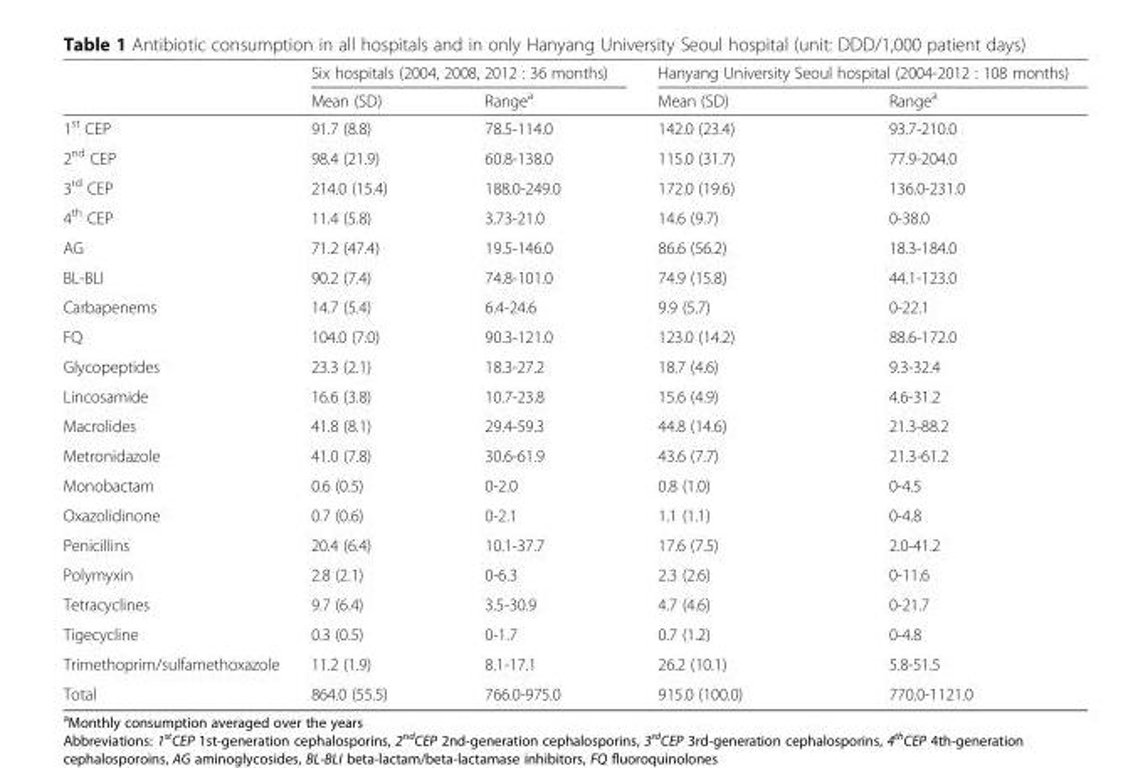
<table><thead><tr><td rowspan="2"></td><td colspan="2">Six hospitals (2004, 2008, 2012 : 36 months)</td><td colspan="2">Hanyang University Seoul hospital (2004-2012 : 108 months)</td></tr><tr><td>Mean (SD)</td><td>Range<sup>a</sup></td><td>Mean (SD)</td><td>Range<sup>a</sup></td></tr></thead><tbody><tr><td>1<sup>st</sup> CEP</td><td>91.7 (8.8)</td><td>78.5-114.0</td><td>142.0 (23.4)</td><td>93.7-210.0</td></tr><tr><td>2<sup>nd</sup> CEP</td><td>98.4 (21.9)</td><td>60.8-138.0</td><td>115.0 (31.7)</td><td>77.9-204.0</td></tr><tr><td>3<sup>rd</sup> CEP</td><td>214.0 (15.4)</td><td>188.0-249.0</td><td>172.0 (19.6)</td><td>136.0-231.0</td></tr><tr><td>4<sup>th</sup> CEP</td><td>11.4 (5.8)</td><td>3.73-21.0</td><td>14.6 (9.7)</td><td>0-38.0</td></tr><tr><td>AG</td><td>71.2 (47.4)</td><td>19.5-146.0</td><td>86.6 (56.2)</td><td>18.3-184.0</td></tr><tr><td>BL-BLI</td><td>90.2 (7.4)</td><td>74.8-101.0</td><td>74.9 (15.8)</td><td>44.1-123.0</td></tr><tr><td>Carbapenems</td><td>14.7 (5.4)</td><td>6.4-24.6</td><td>9.9 (5.7)</td><td>0-22.1</td></tr><tr><td>FQ</td><td>104.0 (7.0)</td><td>90.3-121.0</td><td>123.0 (14.2)</td><td>88.6-172.0</td></tr><tr><td>Glycopeptides</td><td>23.3 (2.1)</td><td>18.3-27.2</td><td>18.7 (4.6)</td><td>9.3-32.4</td></tr><tr><td>Lincosamide</td><td>16.6 (3.8)</td><td>10.7-23.8</td><td>15.6 (4.9)</td><td>4.6-31.2</td></tr><tr><td>Macrolides</td><td>41.8 (8.1)</td><td>29.4-59.3</td><td>44.8 (14.6)</td><td>21.3-88.2</td></tr><tr><td>Metronidazole</td><td>41.0 (7.8)</td><td>30.6-61.9</td><td>43.6 (7.7)</td><td>21.3-61.2</td></tr><tr><td>Monobactam</td><td>0.6 (0.5)</td><td>0-2.0</td><td>0.8 (1.0)</td><td>0-4.5</td></tr><tr><td>Oxazolidinone</td><td>0.7 (0.6)</td><td>0-2.1</td><td>1.1 (1.1)</td><td>0-4.8</td></tr><tr><td>Penicillins</td><td>20.4 (6.4)</td><td>10.1-37.7</td><td>17.6 (7.5)</td><td>2.0-41.2</td></tr><tr><td>Polymyxin</td><td>2.8 (2.1)</td><td>0-6.3</td><td>2.3 (2.6)</td><td>0-11.6</td></tr><tr><td>Tetracyclines</td><td>9.7 (6.4)</td><td>3.5-30.9</td><td>4.7 (4.6)</td><td>0-21.7</td></tr><tr><td>Tigecycline</td><td>0.3 (0.5)</td><td>0-1.7</td><td>0.7 (1.2)</td><td>0-4.8</td></tr><tr><td>Trimethoprim/sulfamethoxazole</td><td>11.2 (1.9)</td><td>8.1-17.1</td><td>26.2 (10.1)</td><td>5.8-51.5</td></tr><tr><td>Total</td><td>864.0 (55.5)</td><td>766.0-975.0</td><td>915.0 (100.0)</td><td>770.0-1121.0</td></tr></tbody></table>